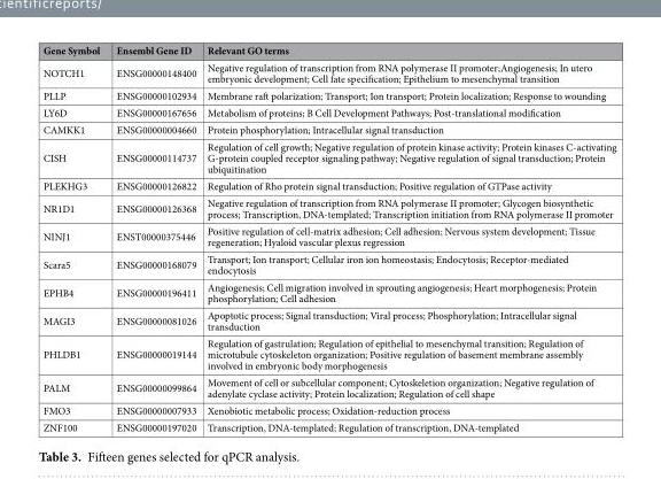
<table><thead><tr><td>Gene Symbol</td><td>Ensembl Gene ID</td><td>Relevant GO terms</td></tr></thead><tbody><tr><td>NOTCH1</td><td>ENSG00000148400</td><td>Negative regulation of transcription from RNA polymerase II promoter;Angiogenesis; In utero embryonic development; Cell fate specification; Epithelium to mesenchymal transition</td></tr><tr><td>PLLP</td><td>ENSG00000102934</td><td>Membrane raft polarization; Transport; Ion transport; Protein localization; Response to wounding</td></tr><tr><td>LY6D</td><td>ENSG00000167656</td><td>Metabolism of proteins; B Cell Development Pathways; Post-translational modification</td></tr><tr><td>CAMKK1</td><td>ENSG00000004660</td><td>Protein phosphorylation; Intracellular signal transduction</td></tr><tr><td>CISH</td><td>ENSG00000114737</td><td>Regulation of cell growth; Negative regulation of protein kinase activity; Protein kinases C-activating G-protein coupled receptor signaling pathway; Negative regulation of signal transduction; Protein ubiquitination</td></tr><tr><td>PLEKHG3</td><td>ENSG00000126822</td><td>Regulation of Rho protein signal transduction; Positive regulation of GTPase activity</td></tr><tr><td>NR1D1</td><td>ENSG00000126368</td><td>Negative regulation of transcription from RNA polymerase II promoter; Glycogen biosynthetic process; Transcription, DNA-templated; Transcription initiation from RNA polymerase II promoter</td></tr><tr><td>NINJ1</td><td>ENST00000375446</td><td>Positive regulation of cell-matrix adhesion; Cell adhesion; Nervous system development; Tissue regeneration; Hyaloid vascular plexus regression</td></tr><tr><td>Scara5</td><td>ENSG00000168079</td><td>Transport; Ion transport; Cellular iron ion homeostasis; Endocytosis; Receptor-mediated endocytosis</td></tr><tr><td>EPHB4</td><td>ENSG00000196411</td><td>Angiogenesis; Cell migration involved in sprouting angiogenesis; Heart morphogenesis; Protein phosphorylation; Cell adhesion</td></tr><tr><td>MAGI3</td><td>ENSG00000081026</td><td>Apoptotic process; Signal transduction; Viral process; Phosphorylation; Intracellular signal transduction</td></tr><tr><td>PHLDB1</td><td>ENSG00000019144</td><td>Regulation of gastrulation; Regulation of epithelial to mesenchymal transition; Regulation of microtubule cytoskeleton organization; Positive regulation of basement membrane assembly involved in embryonic body morphogenesis</td></tr><tr><td>PALM</td><td>ENSG00000099864</td><td>Movement of cell or subcellular component; Cytoskeletion organization; Negative regulation of adenylate cyclase activity; Protein localization; Regulation of cell shape</td></tr><tr><td>FMO3</td><td>ENSG00000007933</td><td>Xenobiotic metabolic process; Oxidation-reduction process</td></tr><tr><td>ZNF100</td><td>ENSG00000197020</td><td>Transcription, DNA-templated; Regulation of transcription, DNA-templated</td></tr></tbody></table>